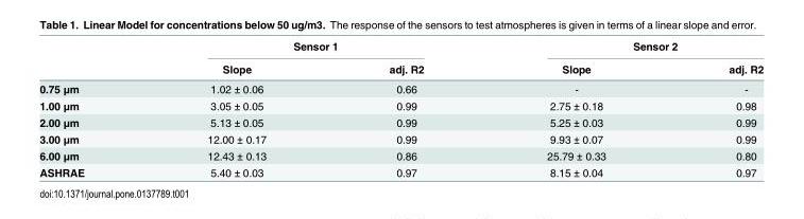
<table><thead><tr><td rowspan="2"></td><td colspan="2">Sensor 1</td><td colspan="2">Sensor 2</td></tr><tr><td>Slope</td><td>adj. R2</td><td>Slope</td><td>adj. R2</td></tr></thead><tbody><tr><td>0.75 μm</td><td>1.02 ± 0.06</td><td>0.66</td><td>-</td><td>-</td></tr><tr><td>1.00 μm</td><td>3.05 ± 0.05</td><td>0.99</td><td>2.75 ± 0.18</td><td>0.98</td></tr><tr><td>2.00 μm</td><td>5.13 ± 0.05</td><td>0.99</td><td>5.25 ± 0.03</td><td>0.99</td></tr><tr><td>3.00 μm</td><td>12.00 ± 0.17</td><td>0.99</td><td>9.93 ± 0.07</td><td>0.99</td></tr><tr><td>6.00 μm</td><td>12.43 ± 0.13</td><td>0.86</td><td>25.79 ± 0.33</td><td>0.80</td></tr><tr><td>ASHRAE</td><td>5.40 ± 0.03</td><td>0.97</td><td>8.15 ± 0.04</td><td>0.97</td></tr></tbody></table>